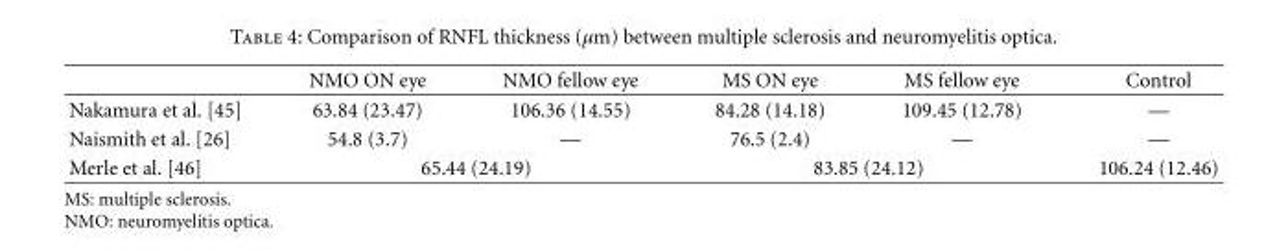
<table><thead><tr><td></td><td>NMO ON eye</td><td>NMO fellow eye</td><td>MS ON eye</td><td>MS fellow eye</td><td>Control</td></tr></thead><tbody><tr><td>Nakamura et al. [45]</td><td>63.84 (23.47)</td><td>106.36 (14.55)</td><td>84.28 (14.18)</td><td>109.45 (12.78)</td><td>—</td></tr><tr><td>Naismith et al. [26]</td><td>54.8 (3.7)</td><td>—</td><td>76.5 (2.4)</td><td>—</td><td>—</td></tr><tr><td>Merle et al. [46]</td><td colspan="2">65.44 (24.19)</td><td colspan="2">83.85 (24.12)</td><td>106.24 (12.46)</td></tr></tbody></table>